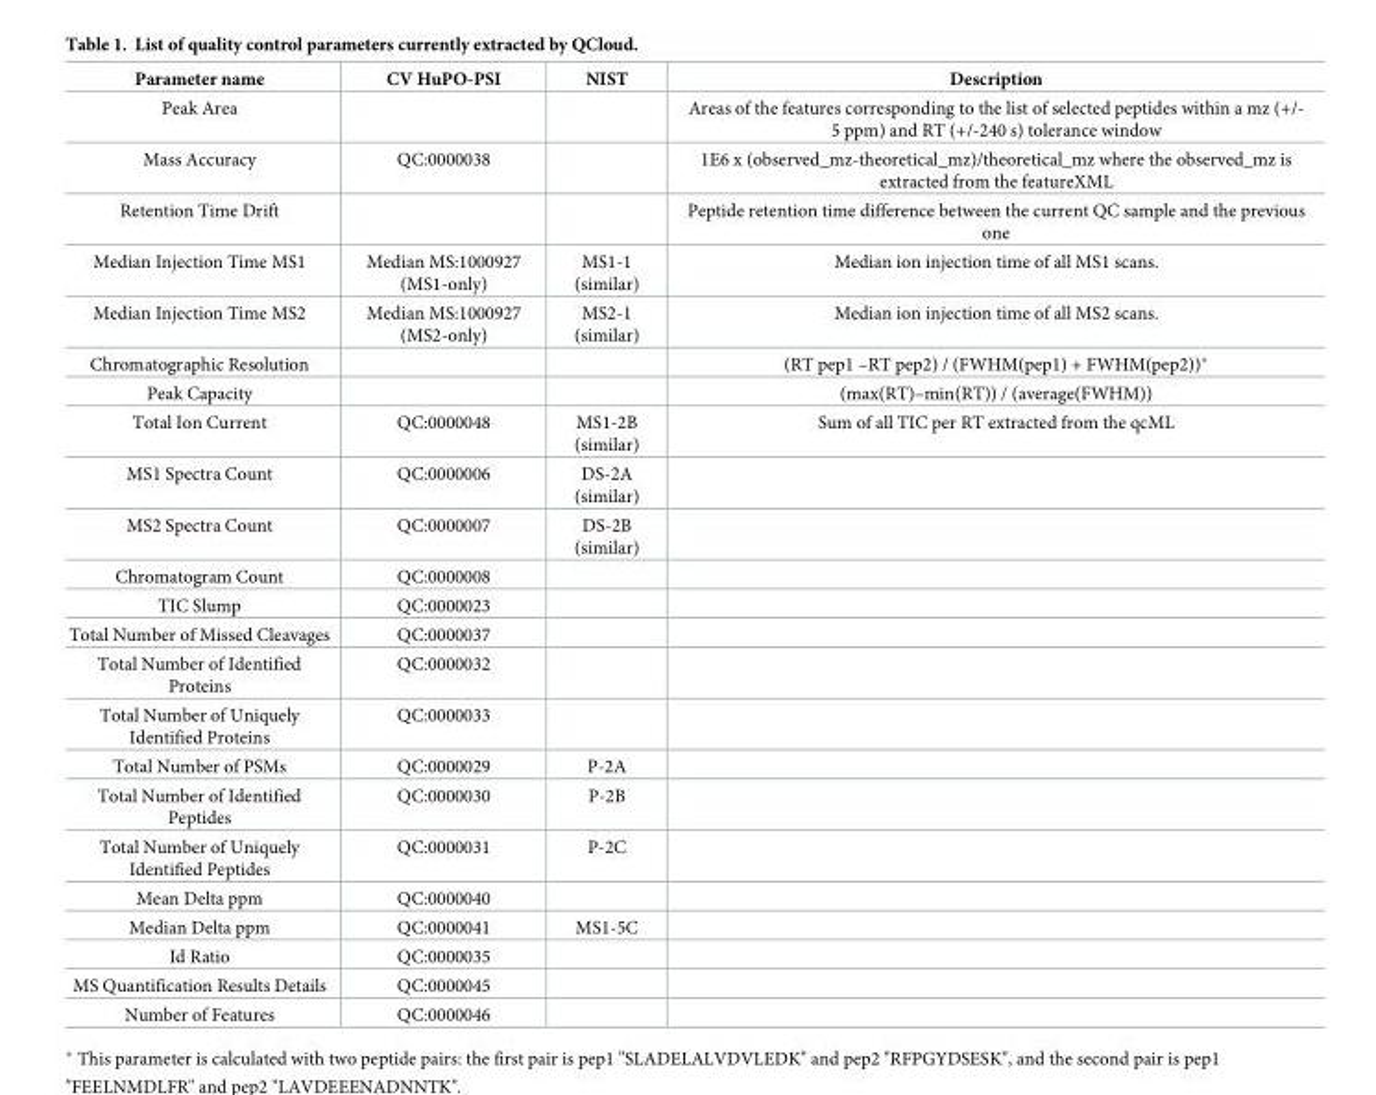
<table><thead><tr><td>Parameter name</td><td>CV HuPO-PSI</td><td>NIST</td><td>Description</td></tr></thead><tbody><tr><td>Peak Area</td><td></td><td></td><td>Areas of the features corresponding to the list of selected peptides within a mz (+/- 5 ppm) and RT (+/-240 s) tolerance window</td></tr><tr><td>Mass Accuracy</td><td>QC:0000038</td><td></td><td>1E6 x (observed_mz-theoretical_mz)/theoretical_mz where the observed_mz is extracted from the featureXML</td></tr><tr><td>Retention Time Drift</td><td></td><td></td><td>Peptide retention time difference between the current QC sample and the previous one</td></tr><tr><td>Median Injection Time MS1</td><td>Median MS:1000927 (MS1-only)</td><td>MS1-1 (similar)</td><td>Median ion injection time of all MS1 scans.</td></tr><tr><td>Median Injection Time MS2</td><td>Median MS:1000927 (MS2-only)</td><td>MS2-1 (similar)</td><td>Median ion injection time of all MS2 scans.</td></tr><tr><td>Chromatographic Resolution</td><td></td><td></td><td>(RT pep1 –RT pep2) / (FWHM(pep1) + FWHM(pep2))*</td></tr><tr><td>Peak Capacity</td><td></td><td></td><td>(max(RT)–min(RT)) / (average(FWHM))</td></tr><tr><td>Total Ion Current</td><td>QC:0000048</td><td>MS1-2B (similar)</td><td>Sum of all TIC per RT extracted from the qcML</td></tr><tr><td>MS1 Spectra Count</td><td>QC:0000006</td><td>DS-2A (similar)</td><td></td></tr><tr><td>MS2 Spectra Count</td><td>QC:0000007</td><td>DS-2B (similar)</td><td></td></tr><tr><td>Chromatogram Count</td><td>QC:0000008</td><td></td><td></td></tr><tr><td>TIC Slump</td><td>QC:0000023</td><td></td><td></td></tr><tr><td>Total Number of Missed Cleavages</td><td>QC:0000037</td><td></td><td></td></tr><tr><td>Total Number of Identified Proteins</td><td>QC:0000032</td><td></td><td></td></tr><tr><td>Total Number of Uniquely Identified Proteins</td><td>QC:0000033</td><td></td><td></td></tr><tr><td>Total Number of PSMs</td><td>QC:0000029</td><td>P-2A</td><td></td></tr><tr><td>Total Number of Identified Peptides</td><td>QC:0000030</td><td>P-2B</td><td></td></tr><tr><td>Total Number of Uniquely Identified Peptides</td><td>QC:0000031</td><td>P-2C</td><td></td></tr><tr><td>Mean Delta ppm</td><td>QC:0000040</td><td></td><td></td></tr><tr><td>Median Delta ppm</td><td>QC:0000041</td><td>MS1-5C</td><td></td></tr><tr><td>Id Ratio</td><td>QC:0000035</td><td></td><td></td></tr><tr><td>MS Quantification Results Details</td><td>QC:0000045</td><td></td><td></td></tr><tr><td>Number of Features</td><td>QC:0000046</td><td></td><td></td></tr></tbody></table>